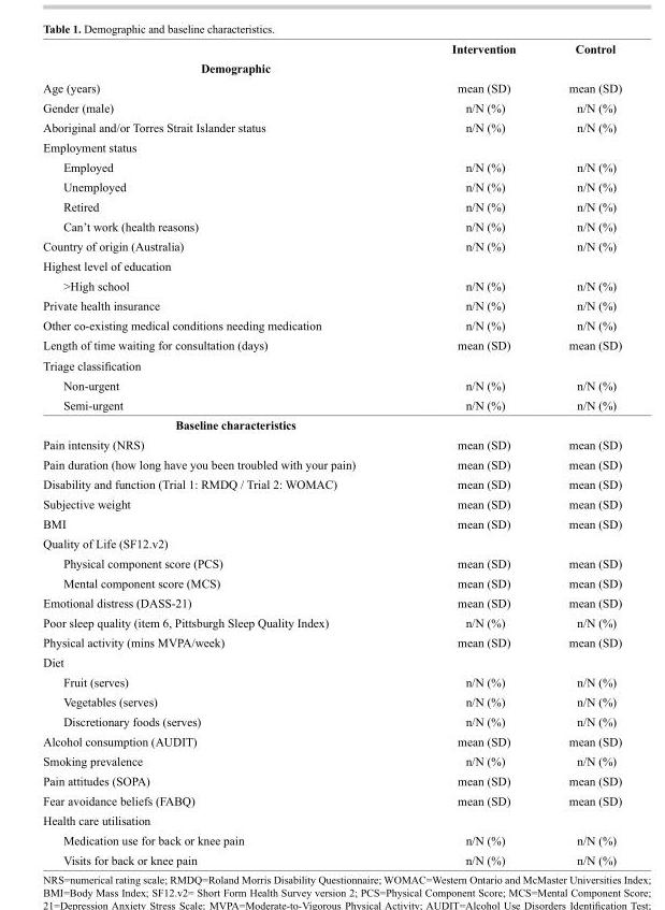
<table><thead><tr><td rowspan="2">Demographic</td><td rowspan="2">Intervention</td><td rowspan="2">Control</td></tr><tr></tr></thead><tbody><tr><td>Age (years)</td><td>mean (SD)</td><td>mean (SD)</td></tr><tr><td>Gender (male)</td><td>n/N (%)</td><td>n/N (%)</td></tr><tr><td>Aboriginal and/or Torres Strait Islander status</td><td>n/N (%)</td><td>n/N (%)</td></tr><tr><td colspan="3">Employment status</td></tr><tr><td>Employed</td><td>n/N (%)</td><td>n/N (%)</td></tr><tr><td>Unemployed</td><td>n/N (%)</td><td>n/N (%)</td></tr><tr><td>Retired</td><td>n/N (%)</td><td>n/N (%)</td></tr><tr><td>Can’t work (health reasons)</td><td>n/N (%)</td><td>n/N (%)</td></tr><tr><td>Country of origin (Australia)</td><td>n/N (%)</td><td>n/N (%)</td></tr><tr><td colspan="3">Highest level of education</td></tr><tr><td>&gt;High school</td><td>n/N (%)</td><td>n/N (%)</td></tr><tr><td>Private health insurance</td><td>n/N (%)</td><td>n/N (%)</td></tr><tr><td>Other co-existing medical conditions needing medication</td><td>n/N (%)</td><td>n/N (%)</td></tr><tr><td>Length of time waiting for consultation (days)</td><td>mean (SD)</td><td>mean (SD)</td></tr><tr><td colspan="3">Triage classification</td></tr><tr><td>Non-urgent</td><td>n/N (%)</td><td>n/N (%)</td></tr><tr><td>Semi-urgent</td><td>n/N (%)</td><td>n/N (%)</td></tr><tr><td colspan="3">Baseline characteristics</td></tr><tr><td>Pain intensity (NRS)</td><td>mean (SD)</td><td>mean (SD)</td></tr><tr><td>Pain duration (how long have you been troubled with your pain)</td><td>mean (SD)</td><td>mean (SD)</td></tr><tr><td>Disability and function (Trial 1: RMDQ / Trial 2: WOMAC)</td><td>mean (SD)</td><td>mean (SD)</td></tr><tr><td>Subjective weight</td><td>mean (SD)</td><td>mean (SD)</td></tr><tr><td>BMI</td><td>mean (SD)</td><td>mean (SD)</td></tr><tr><td colspan="3">Quality of Life (SF12.v2)</td></tr><tr><td>Physical component score (PCS)</td><td>mean (SD)</td><td>mean (SD)</td></tr><tr><td>Mental component score (MCS)</td><td>mean (SD)</td><td>mean (SD)</td></tr><tr><td>Emotional distress (DASS-21)</td><td>mean (SD)</td><td>mean (SD)</td></tr><tr><td>Poor sleep quality (item 6, Pittsburgh Sleep Quality Index)</td><td>n/N (%)</td><td>n/N (%)</td></tr><tr><td>Physical activity (mins MVPA/week)</td><td>mean (SD)</td><td>mean (SD)</td></tr><tr><td colspan="3">Diet</td></tr><tr><td>Fruit (serves)</td><td>n/N (%)</td><td>n/N (%)</td></tr><tr><td>Vegetables (serves)</td><td>n/N (%)</td><td>n/N (%)</td></tr><tr><td>Discretionary foods (serves)</td><td>n/N (%)</td><td>n/N (%)</td></tr><tr><td>Alcohol consumption (AUDIT)</td><td>mean (SD)</td><td>mean (SD)</td></tr><tr><td>Smoking prevalence</td><td>n/N (%)</td><td>n/N (%)</td></tr><tr><td>Pain attitudes (SOPA)</td><td>mean (SD)</td><td>mean (SD)</td></tr><tr><td>Fear avoidance beliefs (FABQ)</td><td>mean (SD)</td><td>mean (SD)</td></tr><tr><td colspan="3">Health care utilisation</td></tr><tr><td>Medication use for back or knee pain</td><td>n/N (%)</td><td>n/N (%)</td></tr><tr><td>Visits for back or knee pain</td><td>n/N (%)</td><td>n/N (%)</td></tr></tbody></table>